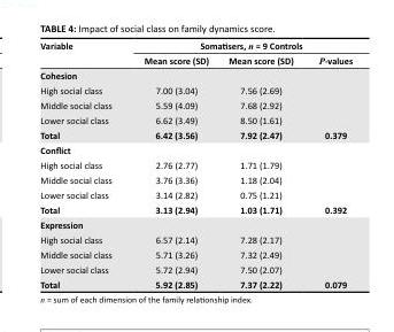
<table><thead><tr><td rowspan="2">Variable</td><td colspan="3">Somatisers, n = 9 Controls</td></tr><tr><td>Mean score (SD)</td><td>Mean score (SD)</td><td>P-values</td></tr></thead><tbody><tr><td colspan="4">Cohesion</td></tr><tr><td>High social class</td><td>7.00 (3.04)</td><td>7.56 (2.69)</td><td></td></tr><tr><td>Middle social class</td><td>5.59 (4.09)</td><td>7.68 (2.92)</td><td></td></tr><tr><td>Lower social class</td><td>6.62 (3.49)</td><td>8.50 (1.61)</td><td></td></tr><tr><td>Total</td><td>6.42 (3.56)</td><td>7.92 (2.47)</td><td>0.379</td></tr><tr><td colspan="4">Conflict</td></tr><tr><td>High social class</td><td>2.76 (2.77)</td><td>1.71 (1.79)</td><td></td></tr><tr><td>Middle social class</td><td>3.76 (3.36)</td><td>1.18 (2.04)</td><td></td></tr><tr><td>Lower social class</td><td>3.14 (2.82)</td><td>0.75 (1.21)</td><td></td></tr><tr><td>Total</td><td>3.13 (2.94)</td><td>1.03 (1.71)</td><td>0.392</td></tr><tr><td colspan="4">Expression</td></tr><tr><td>High social class</td><td>6.57 (2.14)</td><td>7.28 (2.17)</td><td></td></tr><tr><td>Middle social class</td><td>5.71 (3.26)</td><td>7.32 (2.49)</td><td></td></tr><tr><td>Lower social class</td><td>5.72 (2.94)</td><td>7.50 (2.07)</td><td></td></tr><tr><td>Total</td><td>5.92 (2.85)</td><td>7.37 (2.22)</td><td>0.079</td></tr></tbody></table>